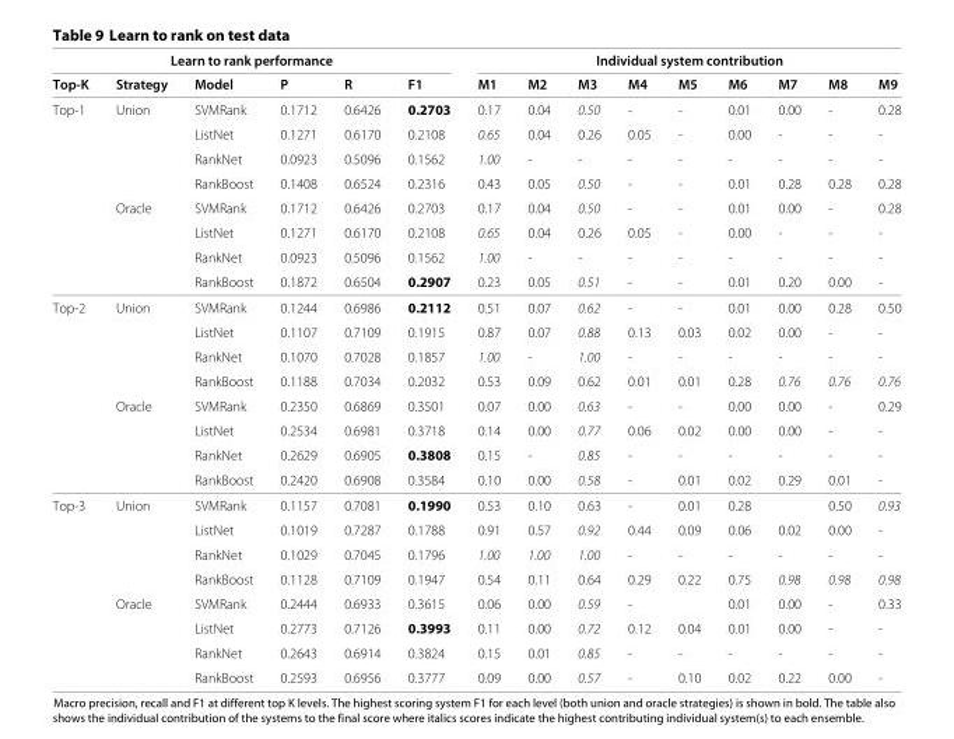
<table><thead><tr><td colspan="6">Learn to rank performance</td><td colspan="9">Individual system contribution</td></tr><tr><td>Top-K</td><td>Strategy</td><td>Model</td><td>P</td><td>R</td><td>F1</td><td>M1</td><td>M2</td><td>M3</td><td>M4</td><td>M5</td><td>M6</td><td>M7</td><td>M8</td><td>M9</td></tr></thead><tbody><tr><td rowspan="8">Top-1</td><td>Union</td><td>SVMRank</td><td>0.1712</td><td>0.6426</td><td>0.2703</td><td>0.17</td><td>0.04</td><td>0.50</td><td>-</td><td>-</td><td>0.01</td><td>0.00</td><td>-</td><td>0.28</td></tr><tr><td></td><td>ListNet</td><td>0.1271</td><td>0.6170</td><td>0.2108</td><td>0.65</td><td>0.04</td><td>0.26</td><td>0.05</td><td>-</td><td>0.00</td><td>-</td><td>-</td><td>-</td></tr><tr><td></td><td>RankNet</td><td>0.0923</td><td>0.5096</td><td>0.1562</td><td>1.00</td><td>-</td><td>-</td><td>-</td><td>-</td><td>-</td><td>-</td><td>-</td><td>-</td></tr><tr><td></td><td>RankBoost</td><td>0.1408</td><td>0.6524</td><td>0.2316</td><td>0.43</td><td>0.05</td><td>0.50</td><td>-</td><td>-</td><td>0.01</td><td>0.28</td><td>0.28</td><td>0.28</td></tr><tr><td>Oracle</td><td>SVMRank</td><td>0.1712</td><td>0.6426</td><td>0.2703</td><td>0.17</td><td>0.04</td><td>0.50</td><td>-</td><td>-</td><td>0.01</td><td>0.00</td><td>-</td><td>0.28</td></tr><tr><td></td><td>ListNet</td><td>0.1271</td><td>0.6170</td><td>0.2108</td><td>0.65</td><td>0.04</td><td>0.26</td><td>0.05</td><td>-</td><td>0.00</td><td>-</td><td>-</td><td>-</td></tr><tr><td></td><td>RankNet</td><td>0.0923</td><td>0.5096</td><td>0.1562</td><td>1.00</td><td>-</td><td>-</td><td>-</td><td>-</td><td>-</td><td>-</td><td>-</td><td>-</td></tr><tr><td></td><td>RankBoost</td><td>0.1872</td><td>0.6504</td><td>0.2907</td><td>0.23</td><td>0.05</td><td>0.51</td><td>-</td><td>-</td><td>0.01</td><td>0.20</td><td>0.00</td><td>-</td></tr><tr><td rowspan="8">Top-2</td><td>Union</td><td>SVMRank</td><td>0.1244</td><td>0.6986</td><td>0.2112</td><td>0.51</td><td>0.07</td><td>0.62</td><td>-</td><td>-</td><td>0.01</td><td>0.00</td><td>0.28</td><td>0.50</td></tr><tr><td></td><td>ListNet</td><td>0.1107</td><td>0.7109</td><td>0.1915</td><td>0.87</td><td>0.07</td><td>0.88</td><td>0.13</td><td>0.03</td><td>0.02</td><td>0.00</td><td>-</td><td>-</td></tr><tr><td></td><td>RankNet</td><td>0.1070</td><td>0.7028</td><td>0.1857</td><td>1.00</td><td>-</td><td>1.00</td><td>-</td><td>-</td><td>-</td><td>-</td><td>-</td><td>-</td></tr><tr><td></td><td>RankBoost</td><td>0.1188</td><td>0.7034</td><td>0.2032</td><td>0.53</td><td>0.09</td><td>0.62</td><td>0.01</td><td>0.01</td><td>0.28</td><td>0.76</td><td>0.76</td><td>0.76</td></tr><tr><td>Oracle</td><td>SVMRank</td><td>0.2350</td><td>0.6869</td><td>0.3501</td><td>0.07</td><td>0.00</td><td>0.63</td><td>-</td><td>-</td><td>0.00</td><td>0.00</td><td>-</td><td>0.29</td></tr><tr><td></td><td>ListNet</td><td>0.2534</td><td>0.6981</td><td>0.3718</td><td>0.14</td><td>0.00</td><td>0.77</td><td>0.06</td><td>0.02</td><td>0.00</td><td>0.00</td><td>-</td><td>-</td></tr><tr><td></td><td>RankNet</td><td>0.2629</td><td>0.6905</td><td>0.3808</td><td>0.15</td><td>-</td><td>0.85</td><td>-</td><td>-</td><td>-</td><td>-</td><td>-</td><td>-</td></tr><tr><td></td><td>RankBoost</td><td>0.2420</td><td>0.6908</td><td>0.3584</td><td>0.10</td><td>0.00</td><td>0.58</td><td>-</td><td>0.01</td><td>0.02</td><td>0.29</td><td>0.01</td><td>-</td></tr><tr><td rowspan="8">Top-3</td><td>Union</td><td>SVMRank</td><td>0.1157</td><td>0.7081</td><td>0.1990</td><td>0.53</td><td>0.10</td><td>0.63</td><td>-</td><td>0.01</td><td>0.28</td><td></td><td>0.50</td><td>0.93</td></tr><tr><td></td><td>ListNet</td><td>0.1019</td><td>0.7287</td><td>0.1788</td><td>0.91</td><td>0.57</td><td>0.92</td><td>0.44</td><td>0.09</td><td>0.06</td><td>0.02</td><td>0.00</td><td>-</td></tr><tr><td></td><td>RankNet</td><td>0.1029</td><td>0.7045</td><td>0.1796</td><td>1.00</td><td>1.00</td><td>1.00</td><td>-</td><td>-</td><td>-</td><td>-</td><td>-</td><td>-</td></tr><tr><td></td><td>RankBoost</td><td>0.1128</td><td>0.7109</td><td>0.1947</td><td>0.54</td><td>0.11</td><td>0.64</td><td>0.29</td><td>0.22</td><td>0.75</td><td>0.98</td><td>0.98</td><td>0.98</td></tr><tr><td>Oracle</td><td>SVMRank</td><td>0.2444</td><td>0.6933</td><td>0.3615</td><td>0.06</td><td>0.00</td><td>0.59</td><td>-</td><td></td><td>0.01</td><td>0.00</td><td>-</td><td>0.33</td></tr><tr><td></td><td>ListNet</td><td>0.2773</td><td>0.7126</td><td>0.3993</td><td>0.11</td><td>0.00</td><td>0.72</td><td>0.12</td><td>0.04</td><td>0.01</td><td>0.00</td><td>-</td><td>-</td></tr><tr><td></td><td>RankNet</td><td>0.2643</td><td>0.6914</td><td>0.3824</td><td>0.15</td><td>0.01</td><td>0.85</td><td>-</td><td>-</td><td>-</td><td>-</td><td>-</td><td>-</td></tr><tr><td></td><td>RankBoost</td><td>0.2593</td><td>0.6956</td><td>0.3777</td><td>0.09</td><td>0.00</td><td>0.57</td><td>-</td><td>0.10</td><td>0.02</td><td>0.22</td><td>0.00</td><td>-</td></tr></tbody></table>